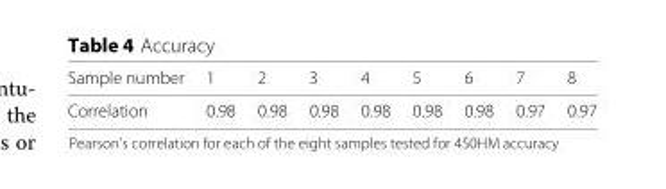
<table><thead><tr><td>Sample number</td><td>1</td><td>2</td><td>3</td><td>4</td><td>5</td><td>6</td><td>7</td><td>8</td></tr></thead><tbody><tr><td>Correlation</td><td>0.98</td><td>0.98</td><td>0.98</td><td>0.98</td><td>0.98</td><td>0.98</td><td>0.97</td><td>0.97</td></tr></tbody></table>